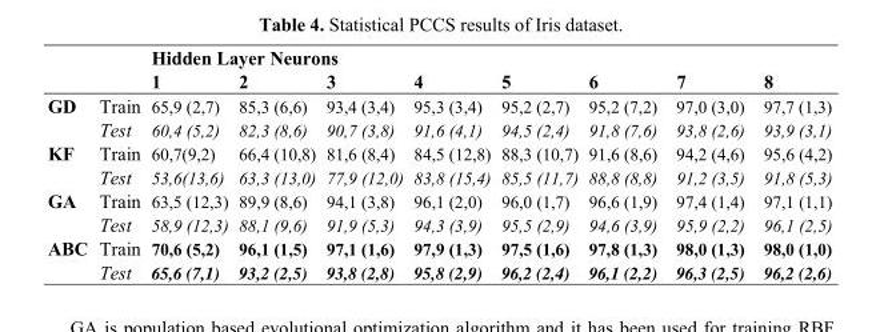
<table><thead><tr><td rowspan="2"></td><td rowspan="2"></td><td colspan="8">Hidden Layer Neurons</td></tr><tr><td>1</td><td>2</td><td>3</td><td>4</td><td>5</td><td>6</td><td>7</td><td>8</td></tr></thead><tbody><tr><td rowspan="2">GD</td><td>Train</td><td>65,9 (2,7)</td><td>85,3 (6,6)</td><td>93,4 (3,4)</td><td>95,3 (3,4)</td><td>95,2 (2,7)</td><td>95,2 (7,2)</td><td>97,0 (3,0)</td><td>97,7 (1,3)</td></tr><tr><td>Test</td><td>60,4 (5,2)</td><td>82,3 (8,6)</td><td>90,7 (3,8)</td><td>91,6 (4,1)</td><td>94,5 (2,4)</td><td>91,8 (7,6)</td><td>93,8 (2,6)</td><td>93,9 (3,1)</td></tr><tr><td rowspan="2">KF</td><td>Train</td><td>60,7(9,2)</td><td>66,4 (10,8)</td><td>81,6 (8,4)</td><td>84,5 (12,8)</td><td>88,3 (10,7)</td><td>91,6 (8,6)</td><td>94,2 (4,6)</td><td>95,6 (4,2)</td></tr><tr><td>Test</td><td>53,6(13,6)</td><td>63,3 (13,0)</td><td>77,9 (12,0)</td><td>83,8 (15,4)</td><td>85,5 (11,7)</td><td>88,8 (8,8)</td><td>91,2 (3,5)</td><td>91,8 (5,3)</td></tr><tr><td rowspan="2">GA</td><td>Train</td><td>63,5 (12,3)</td><td>89,9 (8,6)</td><td>94,1 (3,8)</td><td>96,1 (2,0)</td><td>96,0 (1,7)</td><td>96,6 (1,9)</td><td>97,4 (1,4)</td><td>97,1 (1,1)</td></tr><tr><td>Test</td><td>58,9 (12,3)</td><td>88,1 (9,6)</td><td>91,9 (5,3)</td><td>94,3 (3,9)</td><td>95,5 (2,9)</td><td>94,6 (3,9)</td><td>95,9 (2,2)</td><td>96,1 (2,5)</td></tr><tr><td rowspan="2">ABC</td><td>Train</td><td>70,6 (5,2)</td><td>96,1 (1,5)</td><td>97,1 (1,6)</td><td>97,9 (1,3)</td><td>97,5 (1,6)</td><td>97,8 (1,3)</td><td>98,0 (1,3)</td><td>98,0 (1,0)</td></tr><tr><td>Test</td><td>65,6 (7,1)</td><td>93,2 (2,5)</td><td>93,8 (2,8)</td><td>95,8 (2,9)</td><td>96,2 (2,4)</td><td>96,1 (2,2)</td><td>96,3 (2,5)</td><td>96,2 (2,6)</td></tr></tbody></table>